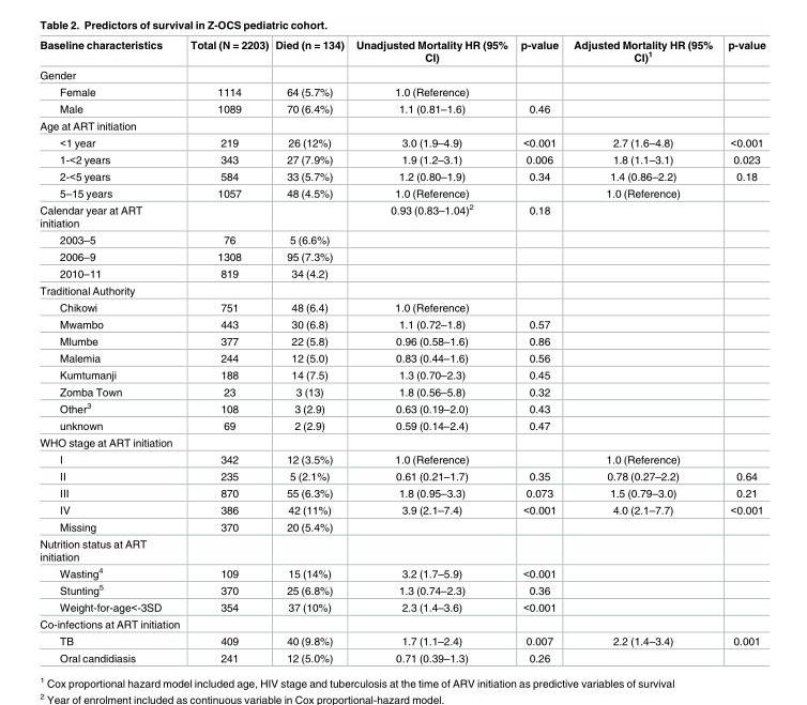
<table><thead><tr><td>Baseline characteristics</td><td>Total (N = 2203)</td><td>Died (n = 134)</td><td>Unadjusted Mortality HR (95% CI)</td><td>p-value</td><td>Adjusted Mortality HR (95% CI)<sup>1</sup></td><td>p-value</td></tr></thead><tbody><tr><td colspan="7">Gender</td></tr><tr><td>Female</td><td>1114</td><td>64 (5.7%)</td><td>1.0 (Reference)</td><td></td><td></td><td></td></tr><tr><td>Male</td><td>1089</td><td>70 (6.4%)</td><td>1.1 (0.81–1.6)</td><td>0.46</td><td></td><td></td></tr><tr><td colspan="7">Age at ART initiation</td></tr><tr><td>&lt;1 year</td><td>219</td><td>26 (12%)</td><td>3.0 (1.9–4.9)</td><td>&lt;0.001</td><td>2.7 (1.6–4.8)</td><td>&lt;0.001</td></tr><tr><td>1-&lt;2 years</td><td>343</td><td>27 (7.9%)</td><td>1.9 (1.2–3.1)</td><td>0.006</td><td>1.8 (1.1–3.1)</td><td>0.023</td></tr><tr><td>2-&lt;5 years</td><td>584</td><td>33 (5.7%)</td><td>1.2 (0.80–1.9)</td><td>0.34</td><td>1.4 (0.86–2.2)</td><td>0.18</td></tr><tr><td>5–15 years</td><td>1057</td><td>48 (4.5%)</td><td>1.0 (Reference)</td><td></td><td>1.0 (Reference)</td><td></td></tr><tr><td>Calendar year at ART initiation</td><td></td><td></td><td>0.93 (0.83–1.04)<sup>2</sup></td><td>0.18</td><td></td><td></td></tr><tr><td>2003–5</td><td>76</td><td>5 (6.6%)</td><td></td><td></td><td></td><td></td></tr><tr><td>2006–9</td><td>1308</td><td>95 (7.3%)</td><td></td><td></td><td></td><td></td></tr><tr><td>2010–11</td><td>819</td><td>34 (4.2)</td><td></td><td></td><td></td><td></td></tr><tr><td colspan="7">Traditional Authority</td></tr><tr><td>Chikowi</td><td>751</td><td>48 (6.4)</td><td>1.0 (Reference)</td><td></td><td></td><td></td></tr><tr><td>Mwambo</td><td>443</td><td>30 (6.8)</td><td>1.1 (0.72–1.8)</td><td>0.57</td><td></td><td></td></tr><tr><td>Mlumbe</td><td>377</td><td>22 (5.8)</td><td>0.96 (0.58–1.6)</td><td>0.86</td><td></td><td></td></tr><tr><td>Malemia</td><td>244</td><td>12 (5.0)</td><td>0.83 (0.44–1.6)</td><td>0.56</td><td></td><td></td></tr><tr><td>Kumtumanji</td><td>188</td><td>14 (7.5)</td><td>1.3 (0.70–2.3)</td><td>0.45</td><td></td><td></td></tr><tr><td>Zomba Town</td><td>23</td><td>3 (13)</td><td>1.8 (0.56–5.8)</td><td>0.32</td><td></td><td></td></tr><tr><td>Other<sup>3</sup></td><td>108</td><td>3 (2.9)</td><td>0.63 (0.19–2.0)</td><td>0.43</td><td></td><td></td></tr><tr><td>unknown</td><td>69</td><td>2 (2.9)</td><td>0.59 (0.14–2.4)</td><td>0.47</td><td></td><td></td></tr><tr><td colspan="7">WHO stage at ART initiation</td></tr><tr><td>I</td><td>342</td><td>12 (3.5%)</td><td>1.0 (Reference)</td><td></td><td>1.0 (Reference)</td><td></td></tr><tr><td>II</td><td>235</td><td>5 (2.1%)</td><td>0.61 (0.21–1.7)</td><td>0.35</td><td>0.78 (0.27–2.2)</td><td>0.64</td></tr><tr><td>III</td><td>870</td><td>55 (6.3%)</td><td>1.8 (0.95–3.3)</td><td>0.073</td><td>1.5 (0.79–3.0)</td><td>0.21</td></tr><tr><td>IV</td><td>386</td><td>42 (11%)</td><td>3.9 (2.1–7.4)</td><td>&lt;0.001</td><td>4.0 (2.1–7.7)</td><td>&lt;0.001</td></tr><tr><td>Missing</td><td>370</td><td>20 (5.4%)</td><td></td><td></td><td></td><td></td></tr><tr><td colspan="7">Nutrition status at ART initiation</td></tr><tr><td>Wasting<sup>4</sup></td><td>109</td><td>15 (14%)</td><td>3.2 (1.7–5.9)</td><td>&lt;0.001</td><td></td><td></td></tr><tr><td>Stunting<sup>5</sup></td><td>370</td><td>25 (6.8%)</td><td>1.3 (0.74–2.3)</td><td>0.36</td><td></td><td></td></tr><tr><td>Weight-for-age&lt;-3SD</td><td>354</td><td>37 (10%)</td><td>2.3 (1.4–3.6)</td><td>&lt;0.001</td><td></td><td></td></tr><tr><td colspan="7">Co-infections at ART initiation</td></tr><tr><td>TB</td><td>409</td><td>40 (9.8%)</td><td>1.7 (1.1–2.4)</td><td>0.007</td><td>2.2 (1.4–3.4)</td><td>0.001</td></tr><tr><td>Oral candidiasis</td><td>241</td><td>12 (5.0%)</td><td>0.71 (0.39–1.3)</td><td>0.26</td><td></td><td></td></tr></tbody></table>